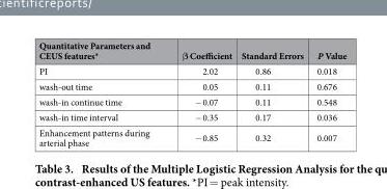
<table><thead><tr><td>Quantitative Parameters and CEUS features*</td><td>β Coefficient</td><td>Standard Errors</td><td>P Value</td></tr></thead><tbody><tr><td>PI</td><td>2.02</td><td>0.86</td><td>0.018</td></tr><tr><td>wash-out time</td><td>0.05</td><td>0.11</td><td>0.676</td></tr><tr><td>wash-in continue time</td><td>− 0.07</td><td>0.11</td><td>0.548</td></tr><tr><td>wash-in time interval</td><td>− 0.35</td><td>0.17</td><td>0.036</td></tr><tr><td>Enhancement patterns during arterial phase</td><td>− 0.85</td><td>0.32</td><td>0.007</td></tr></tbody></table>